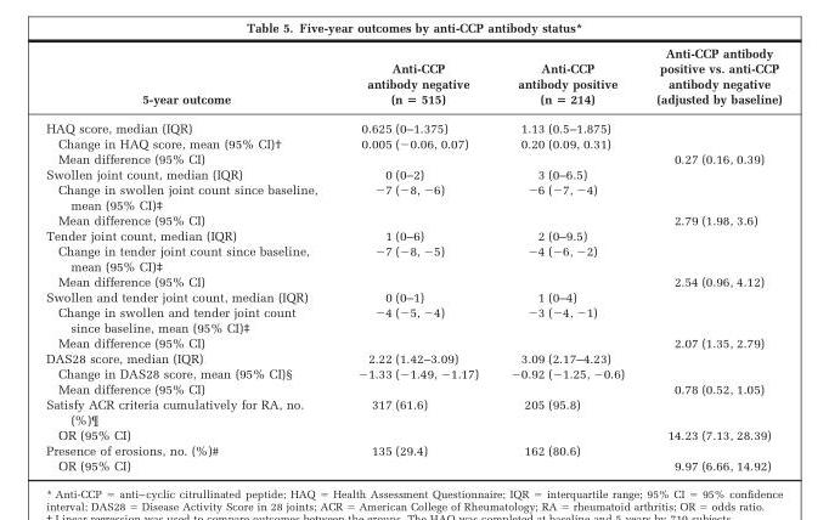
<table><thead><tr><td>5-year outcome</td><td>Anti-CCP antibody negative (n = 515)</td><td>Anti-CCP antibody positive (n = 214)</td><td>Anti-CCP antibody positive vs. anti-CCP antibody negative (adjusted by baseline)</td></tr></thead><tbody><tr><td>HAQ score, median (IQR)</td><td>0.625 (0–1.375)</td><td>1.13 (0.5–1.875)</td><td></td></tr><tr><td>Change in HAQ score, mean (95% CI)†</td><td>0.005 (−0.06, 0.07)</td><td>0.20 (0.09, 0.31)</td><td></td></tr><tr><td>Mean difference (95% CI)</td><td></td><td></td><td>0.27 (0.16, 0.39)</td></tr><tr><td>Swollen joint count, median (IQR)</td><td>0 (0–2)</td><td>3 (0–6.5)</td><td></td></tr><tr><td>Change in swollen joint count since baseline, mean (95% CI)‡</td><td>−7 (−8, −6)</td><td>−6 (−7, −4)</td><td></td></tr><tr><td>Mean difference (95% CI)</td><td></td><td></td><td>2.79 (1.98, 3.6)</td></tr><tr><td>Tender joint count, median (IQR)</td><td>1 (0–6)</td><td>2 (0–9.5)</td><td></td></tr><tr><td>Change in tender joint count since baseline, mean (95% CI)‡</td><td>−7 (−8, −5)</td><td>−4 (−6, −2)</td><td></td></tr><tr><td>Mean difference (95% CI)</td><td></td><td></td><td>2.54 (0.96, 4.12)</td></tr><tr><td>Swollen and tender joint count, median (IQR)</td><td>0 (0–1)</td><td>1 (0–4)</td><td></td></tr><tr><td>Change in swollen and tender joint count since baseline, mean (95% CI)‡</td><td>−4 (−5, −4)</td><td>−3 (−4, −1)</td><td></td></tr><tr><td>Mean difference (95% CI)</td><td></td><td></td><td>2.07 (1.35, 2.79)</td></tr><tr><td>DAS28 score, median (IQR)</td><td>2.22 (1.42–3.09)</td><td>3.09 (2.17–4.23)</td><td></td></tr><tr><td>Change in DAS28 score, mean (95% CI)§</td><td>−1.33 (−1.49, −1.17)</td><td>−0.92 (−1.25, −0.6)</td><td></td></tr><tr><td>Mean difference (95% CI)</td><td></td><td></td><td>0.78 (0.52, 1.05)</td></tr><tr><td>Satisfy ACR criteria cumulatively for RA, no. (%)¶</td><td>317 (61.6)</td><td>205 (95.8)</td><td></td></tr><tr><td>OR (95% CI)</td><td></td><td></td><td>14.23 (7.13, 28.39)</td></tr><tr><td>Presence of erosions, no. (%)#</td><td>135 (29.4)</td><td>162 (80.6)</td><td></td></tr><tr><td>OR (95% CI)</td><td></td><td></td><td>9.97 (6.66, 14.92)</td></tr></tbody></table>